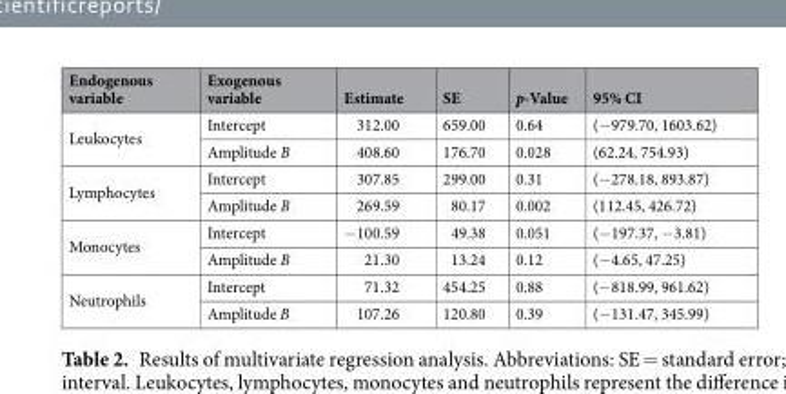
<table><thead><tr><td>Endogenous variable</td><td>Exogenous variable</td><td>Estimate</td><td>SE</td><td>p-Value</td><td>95% CI</td></tr></thead><tbody><tr><td rowspan="2">Leukocytes</td><td>Intercept</td><td>312.00</td><td>659.00</td><td>0.64</td><td>(−979.70, 1603.62)</td></tr><tr><td>Amplitude B</td><td>408.60</td><td>176.70</td><td>0.028</td><td>(62.24, 754.93)</td></tr><tr><td rowspan="2">Lymphocytes</td><td>Intercept</td><td>307.85</td><td>299.00</td><td>0.31</td><td>(−278.18, 893.87)</td></tr><tr><td>Amplitude B</td><td>269.59</td><td>80.17</td><td>0.002</td><td>(112.45, 426.72)</td></tr><tr><td rowspan="2">Monocytes</td><td>Intercept</td><td>−100.59</td><td>49.38</td><td>0.051</td><td>(−197.37, −3.81)</td></tr><tr><td>Amplitude B</td><td>21.30</td><td>13.24</td><td>0.12</td><td>(−4.65, 47.25)</td></tr><tr><td rowspan="2">Neutrophils</td><td>Intercept</td><td>71.32</td><td>454.25</td><td>0.88</td><td>(−818.99, 961.62)</td></tr><tr><td>Amplitude B</td><td>107.26</td><td>120.80</td><td>0.39</td><td>(−131.47, 345.99)</td></tr></tbody></table>